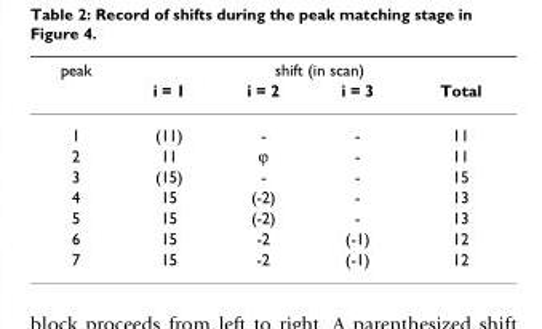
<table><thead><tr><td rowspan="2">peak</td><td colspan="4">shift (in scan)</td></tr><tr><td>i = 1</td><td>i = 2</td><td>i = 3</td><td>Total</td></tr></thead><tbody><tr><td>1</td><td>(11)</td><td>-</td><td>-</td><td>11</td></tr><tr><td>2</td><td>11</td><td>ϕ</td><td>-</td><td>11</td></tr><tr><td>3</td><td>(15)</td><td>-</td><td>-</td><td>15</td></tr><tr><td>4</td><td>15</td><td>(-2)</td><td>-</td><td>13</td></tr><tr><td>5</td><td>15</td><td>(-2)</td><td>-</td><td>13</td></tr><tr><td>6</td><td>15</td><td>-2</td><td>(-1)</td><td>12</td></tr><tr><td>7</td><td>15</td><td>-2</td><td>(-1)</td><td>12</td></tr></tbody></table>